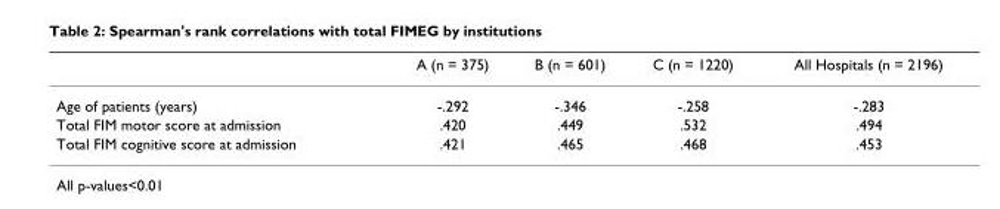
<table><thead><tr><td></td><td>A (n = 375)</td><td>B (n = 601)</td><td>C (n = 1220)</td><td>All Hospitals (n = 2196)</td></tr></thead><tbody><tr><td>Age of patients (years)</td><td>-.292</td><td>-.346</td><td>-.258</td><td>-.283</td></tr><tr><td>Total FIM motor score at admission</td><td>.420</td><td>.449</td><td>.532</td><td>.494</td></tr><tr><td>Total FIM cognitive score at admission</td><td>.421</td><td>.465</td><td>.468</td><td>.453</td></tr></tbody></table>